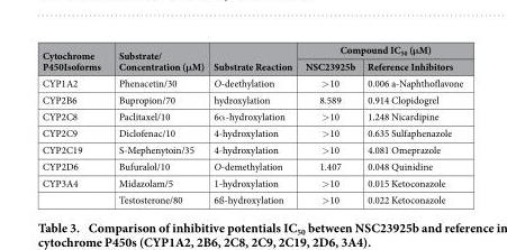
<table><thead><tr><td rowspan="2">Cytochrome P450Isoforms</td><td rowspan="2">Substrate/ Concentration (μM)</td><td rowspan="2">Substrate Reaction</td><td colspan="2">Compound IC<sub>50</sub> (μM)</td></tr><tr><td>NSC23925b</td><td>Reference Inhibitors</td></tr></thead><tbody><tr><td>CYP1A2</td><td>Phenacetin/30</td><td>O-deethylation</td><td>&gt; 10</td><td>0.006 a-Naphthoflavone</td></tr><tr><td>CYP2B6</td><td>Bupropion/70</td><td>hydroxylation</td><td>8.589</td><td>0.914 Clopidogrel</td></tr><tr><td>CYP2C8</td><td>Paclitaxel/10</td><td>6α -hydroxylation</td><td>&gt; 10</td><td>1.248 Nicardipine</td></tr><tr><td>CYP2C9</td><td>Diclofenac/10</td><td>4-hydroxylation</td><td>&gt; 10</td><td>0.635 Sulfaphenazole</td></tr><tr><td>CYP2C19</td><td>S-Mephenytoin/35</td><td>4-hydroxylation</td><td>&gt; 10</td><td>4.081 Omeprazole</td></tr><tr><td>CYP2D6</td><td>Bufuralol/10</td><td>O-demethylation</td><td>1.407</td><td>0.048 Quinidine</td></tr><tr><td rowspan="2">CYP3A4</td><td>Midazolam/5</td><td>1-hydroxylation</td><td>&gt; 10</td><td>0.015 Ketoconazole</td></tr><tr><td>Testosterone/80</td><td>6ß-hydroxylation</td><td>&gt; 10</td><td>0.022 Ketoconazole</td></tr></tbody></table>